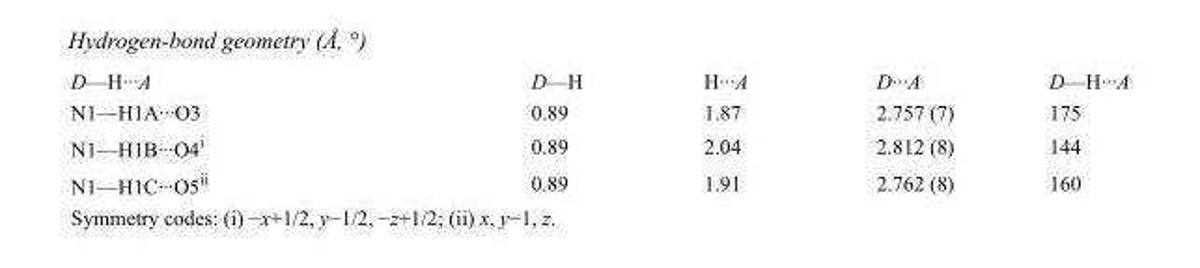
<table><tbody><tr><td>D—H···A</td><td>D—H</td><td>H···A</td><td>D···A</td><td>D—H···A</td></tr><tr><td>N1—H1A···O3</td><td>0.89</td><td>1.87</td><td>2.757 (7)</td><td>175</td></tr><tr><td>N1—H1B···O4<sup>i</sup></td><td>0.89</td><td>2.04</td><td>2.812 (8)</td><td>144</td></tr><tr><td>N1—H1C···O5<sup>ii</sup></td><td>0.89</td><td>1.91</td><td>2.762 (8)</td><td>160</td></tr></tbody></table>